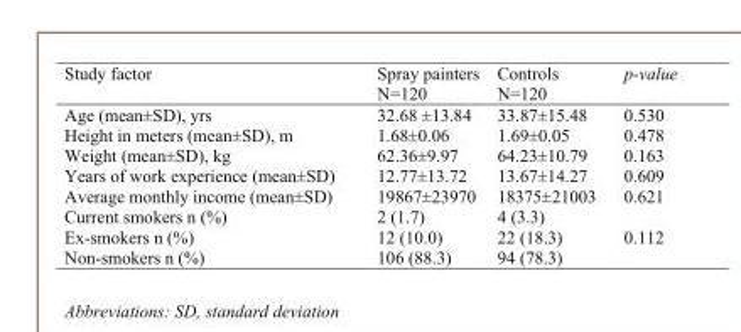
<table><thead><tr><td>Study factor</td><td>Spray painters N=120</td><td>Controls N=120</td><td>p-value</td></tr></thead><tbody><tr><td>Age (mean±SD), yrs</td><td>32.68 ±13.84</td><td>33.87±15.48</td><td>0.530</td></tr><tr><td>Height in meters (mean±SD), m</td><td>1.68±0.06</td><td>1.69±0.05</td><td>0.478</td></tr><tr><td>Weight (mean±SD), kg</td><td>62.36±9.97</td><td>64.23±10.79</td><td>0.163</td></tr><tr><td>Years of work experience (mean±SD)</td><td>12.77±13.72</td><td>13.67±14.27</td><td>0.609</td></tr><tr><td>Average monthly income (mean±SD)</td><td>19867±23970</td><td>18375±21003</td><td>0.621</td></tr><tr><td>Current smokers n (%)</td><td>2 (1.7)</td><td>4 (3.3)</td><td></td></tr><tr><td>Ex-smokers n (%)</td><td>12 (10.0)</td><td>22 (18.3)</td><td>0.112</td></tr><tr><td>Non-smokers n (%)</td><td>106 (88.3)</td><td>94 (78.3)</td><td></td></tr></tbody></table>